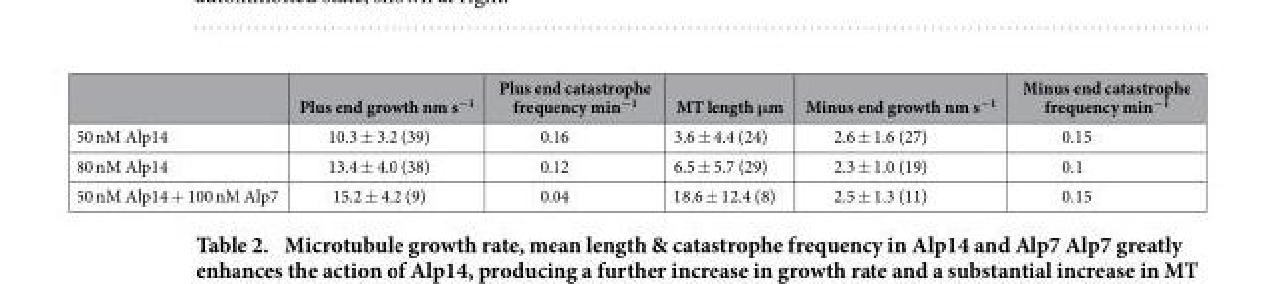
<table><thead><tr><td></td><td>Plus end growth nm s<sup>−1</sup></td><td>Plus end catastrophe frequency min<sup>−1</sup></td><td>MT length μm</td><td>Minus end growth nm s<sup>−1</sup></td><td>Minus end catastrophe frequency min<sup>−1</sup></td></tr></thead><tbody><tr><td>50 nM Alp14</td><td>10.3 ± 3.2 (39)</td><td>0.16</td><td>3.6 ± 4.4 (24)</td><td>2.6 ± 1.6 (27)</td><td>0.15</td></tr><tr><td>80 nM Alp14</td><td>13.4 ± 4.0 (38)</td><td>0.12</td><td>6.5 ± 5.7 (29)</td><td>2.3 ± 1.0 (19)</td><td>0.1</td></tr><tr><td>50 nM Alp14 + 100 nM Alp7</td><td>15.2 ± 4.2 (9)</td><td>0.04</td><td>18.6 ± 12.4 (8)</td><td>2.5 ± 1.3 (11)</td><td>0.15</td></tr></tbody></table>